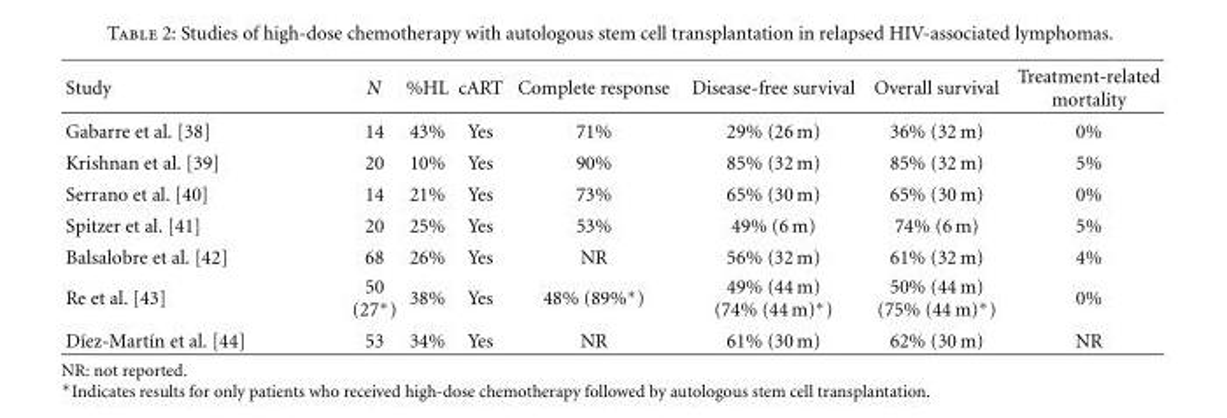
<table><thead><tr><td>Study</td><td>N</td><td>%HL</td><td>cART</td><td>Complete response</td><td>Disease-free survival</td><td>Overall survival</td><td>Treatment-related mortality</td></tr></thead><tbody><tr><td>Gabarre et al. [38]</td><td>14</td><td>43%</td><td>Yes</td><td>71%</td><td>29% (26 m)</td><td>36% (32 m)</td><td>0%</td></tr><tr><td>Krishnan et al. [39]</td><td>20</td><td>10%</td><td>Yes</td><td>90%</td><td>85% (32 m)</td><td>85% (32 m)</td><td>5%</td></tr><tr><td>Serrano et al. [40]</td><td>14</td><td>21%</td><td>Yes</td><td>73%</td><td>65% (30 m)</td><td>65% (30 m)</td><td>0%</td></tr><tr><td>Spitzer et al. [41]</td><td>20</td><td>25%</td><td>Yes</td><td>53%</td><td>49% (6 m)</td><td>74% (6 m)</td><td>5%</td></tr><tr><td>Balsalobre et al. [42]</td><td>68</td><td>26%</td><td>Yes</td><td>NR</td><td>56% (32 m)</td><td>61% (32 m)</td><td>4%</td></tr><tr><td>Re et al. [43]</td><td>50 (27∗)</td><td>38%</td><td>Yes</td><td>48% (89%∗)</td><td>49% (44 m) (74% (44 m)∗)</td><td>50% (44 m) (75% (44 m)∗)</td><td>0%</td></tr><tr><td>D´ıez-Mart´ın et al. [44]</td><td>53</td><td>34%</td><td>Yes</td><td>NR</td><td>61% (30 m)</td><td>62% (30 m)</td><td>NR</td></tr></tbody></table>